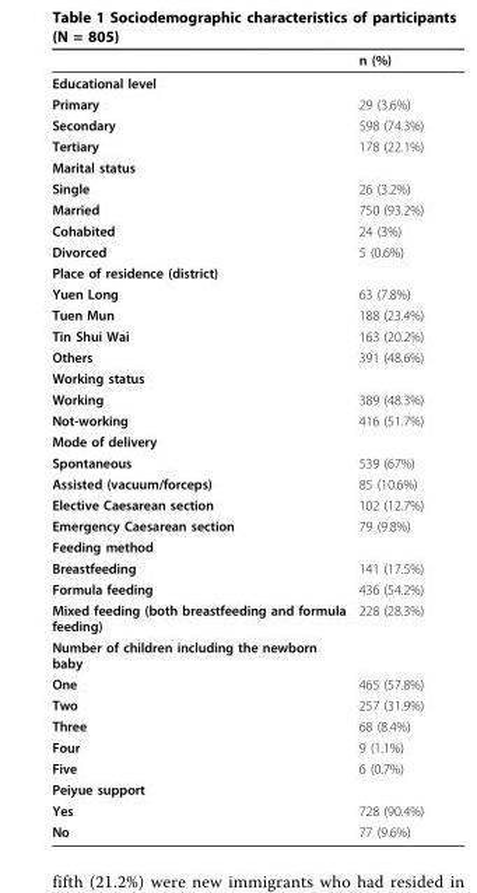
<table><thead><tr><td></td><td>n (%)</td></tr></thead><tbody><tr><td colspan="2">Educational level</td></tr><tr><td>Primary</td><td>29 (3.6%)</td></tr><tr><td>Secondary</td><td>598 (74.3%)</td></tr><tr><td>Tertiary</td><td>178 (22.1%)</td></tr><tr><td colspan="2">Marital status</td></tr><tr><td>Single</td><td>26 (3.2%)</td></tr><tr><td>Married</td><td>750 (93.2%)</td></tr><tr><td>Cohabited</td><td>24 (3%)</td></tr><tr><td>Divorced</td><td>5 (0.6%)</td></tr><tr><td colspan="2">Place of residence (district)</td></tr><tr><td>Yuen Long</td><td>63 (7.8%)</td></tr><tr><td>Tuen Mun</td><td>188 (23.4%)</td></tr><tr><td>Tin Shui Wai</td><td>163 (20.2%)</td></tr><tr><td>Others</td><td>391 (48.6%)</td></tr><tr><td colspan="2">Working status</td></tr><tr><td>Working</td><td>389 (48.3%)</td></tr><tr><td>Not-working</td><td>416 (51.7%)</td></tr><tr><td colspan="2">Mode of delivery</td></tr><tr><td>Spontaneous</td><td>539 (67%)</td></tr><tr><td>Assisted (vacuum/forceps)</td><td>85 (10.6%)</td></tr><tr><td>Elective Caesarean section</td><td>102 (12.7%)</td></tr><tr><td>Emergency Caesarean section</td><td>79 (9.8%)</td></tr><tr><td colspan="2">Feeding method</td></tr><tr><td>Breastfeeding</td><td>141 (17.5%)</td></tr><tr><td>Formula feeding</td><td>436 (54.2%)</td></tr><tr><td>Mixed feeding (both breastfeeding and formula feeding)</td><td>228 (28.3%)</td></tr><tr><td colspan="2">Number of children including the newborn baby</td></tr><tr><td>One</td><td>465 (57.8%)</td></tr><tr><td>Two</td><td>257 (31.9%)</td></tr><tr><td>Three</td><td>68 (8.4%)</td></tr><tr><td>Four</td><td>9 (1.1%)</td></tr><tr><td>Five</td><td>6 (0.7%)</td></tr><tr><td colspan="2">Peiyue support</td></tr><tr><td>Yes</td><td>728 (90.4%)</td></tr><tr><td>No</td><td>77 (9.6%)</td></tr></tbody></table>